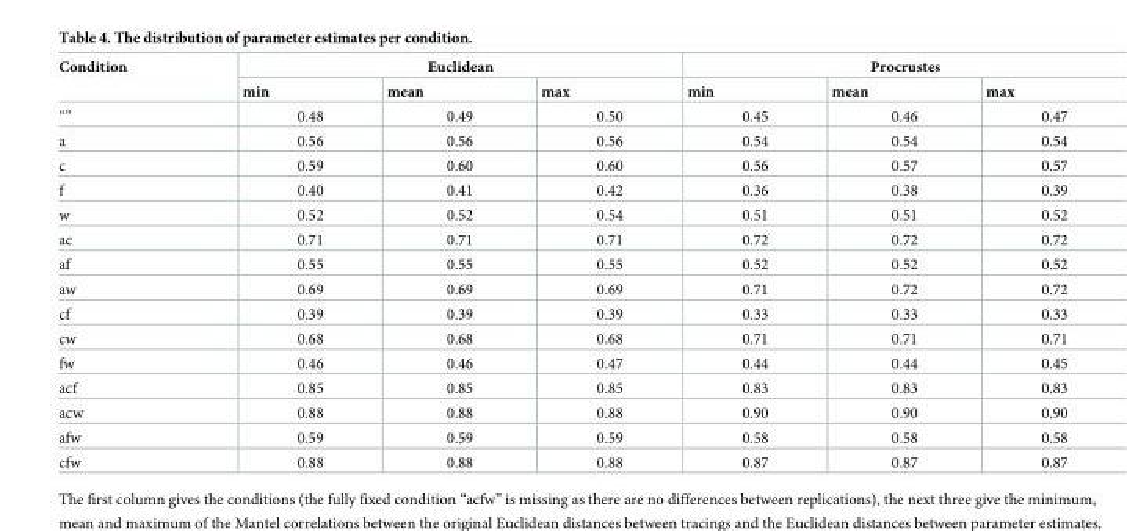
<table><thead><tr><td rowspan="2">Condition</td><td colspan="3">Euclidean</td><td colspan="3">Procrustes</td></tr><tr><td>min</td><td>mean</td><td>max</td><td>min</td><td>mean</td><td>max</td></tr></thead><tbody><tr><td>“”</td><td>0.48</td><td>0.49</td><td>0.50</td><td>0.45</td><td>0.46</td><td>0.47</td></tr><tr><td>a</td><td>0.56</td><td>0.56</td><td>0.56</td><td>0.54</td><td>0.54</td><td>0.54</td></tr><tr><td>c</td><td>0.59</td><td>0.60</td><td>0.60</td><td>0.56</td><td>0.57</td><td>0.57</td></tr><tr><td>f</td><td>0.40</td><td>0.41</td><td>0.42</td><td>0.36</td><td>0.38</td><td>0.39</td></tr><tr><td>w</td><td>0.52</td><td>0.52</td><td>0.54</td><td>0.51</td><td>0.51</td><td>0.52</td></tr><tr><td>ac</td><td>0.71</td><td>0.71</td><td>0.71</td><td>0.72</td><td>0.72</td><td>0.72</td></tr><tr><td>af</td><td>0.55</td><td>0.55</td><td>0.55</td><td>0.52</td><td>0.52</td><td>0.52</td></tr><tr><td>aw</td><td>0.69</td><td>0.69</td><td>0.69</td><td>0.71</td><td>0.72</td><td>0.72</td></tr><tr><td>cf</td><td>0.39</td><td>0.39</td><td>0.39</td><td>0.33</td><td>0.33</td><td>0.33</td></tr><tr><td>cw</td><td>0.68</td><td>0.68</td><td>0.68</td><td>0.71</td><td>0.71</td><td>0.71</td></tr><tr><td>fw</td><td>0.46</td><td>0.46</td><td>0.47</td><td>0.44</td><td>0.44</td><td>0.45</td></tr><tr><td>acf</td><td>0.85</td><td>0.85</td><td>0.85</td><td>0.83</td><td>0.83</td><td>0.83</td></tr><tr><td>acw</td><td>0.88</td><td>0.88</td><td>0.88</td><td>0.90</td><td>0.90</td><td>0.90</td></tr><tr><td>afw</td><td>0.59</td><td>0.59</td><td>0.59</td><td>0.58</td><td>0.58</td><td>0.58</td></tr><tr><td>cfw</td><td>0.88</td><td>0.88</td><td>0.88</td><td>0.87</td><td>0.87</td><td>0.87</td></tr></tbody></table>